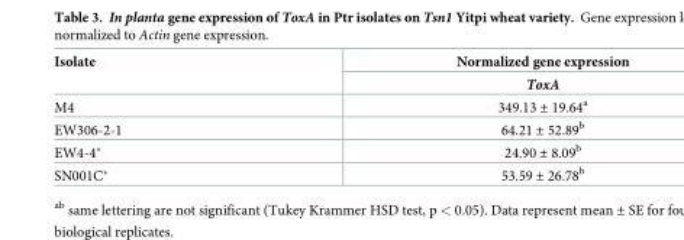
<table><thead><tr><td rowspan="2">Isolate</td><td rowspan="2">Normalized gene expression ToxA</td></tr><tr></tr></thead><tbody><tr><td>M4</td><td>349.13 ± 19.64<sup>a</sup></td></tr><tr><td>EW306-2-1</td><td>64.21 ± 52.89<sup>b</sup></td></tr><tr><td>EW4-4*</td><td>24.90 ± 8.09<sup>b</sup></td></tr><tr><td>SN001C*</td><td>53.59 ± 26.78<sup>b</sup></td></tr></tbody></table>